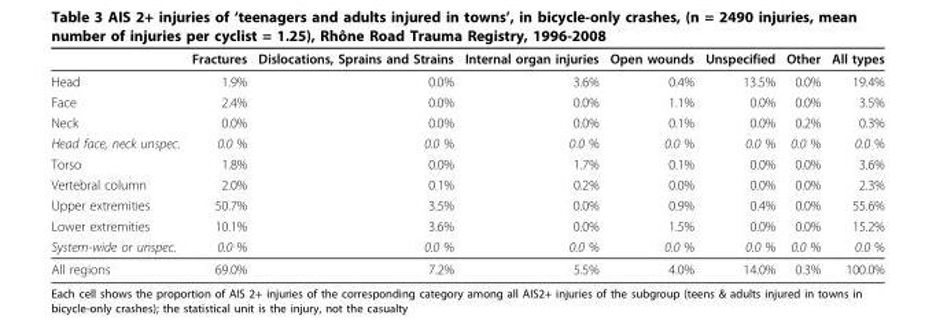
<table><thead><tr><td></td><td>Fractures</td><td>Dislocations, Sprains and Strains</td><td>Internal organ injuries</td><td>Open wounds</td><td>Unspecified</td><td>Other</td><td>All types</td></tr></thead><tbody><tr><td>Head</td><td>1.9%</td><td>0.0%</td><td>3.6%</td><td>0.4%</td><td>13.5%</td><td>0.0%</td><td>19.4%</td></tr><tr><td>Face</td><td>2.4%</td><td>0.0%</td><td>0.0%</td><td>1.1%</td><td>0.0%</td><td>0.0%</td><td>3.5%</td></tr><tr><td>Neck</td><td>0.0%</td><td>0.0%</td><td>0.0%</td><td>0.1%</td><td>0.0%</td><td>0.2%</td><td>0.3%</td></tr><tr><td>Head face, neck unspec.</td><td>0.0 %</td><td>0.0 %</td><td>0.0 %</td><td>0.0 %</td><td>0.0 %</td><td>0.0 %</td><td>0.0 %</td></tr><tr><td>Torso</td><td>1.8%</td><td>0.0%</td><td>1.7%</td><td>0.1%</td><td>0.0%</td><td>0.0%</td><td>3.6%</td></tr><tr><td>Vertebral column</td><td>2.0%</td><td>0.1%</td><td>0.2%</td><td>0.0%</td><td>0.0%</td><td>0.0%</td><td>2.3%</td></tr><tr><td>Upper extremities</td><td>50.7%</td><td>3.5%</td><td>0.0%</td><td>0.9%</td><td>0.4%</td><td>0.0%</td><td>55.6%</td></tr><tr><td>Lower extremities</td><td>10.1%</td><td>3.6%</td><td>0.0%</td><td>1.5%</td><td>0.0%</td><td>0.0%</td><td>15.2%</td></tr><tr><td>System-wide or unspec.</td><td>0.0 %</td><td>0.0 %</td><td>0.0 %</td><td>0.0 %</td><td>0.0 %</td><td>0.0 %</td><td>0.0 %</td></tr><tr><td>All regions</td><td>69.0%</td><td>7.2%</td><td>5.5%</td><td>4.0%</td><td>14.0%</td><td>0.3%</td><td>100.0%</td></tr></tbody></table>